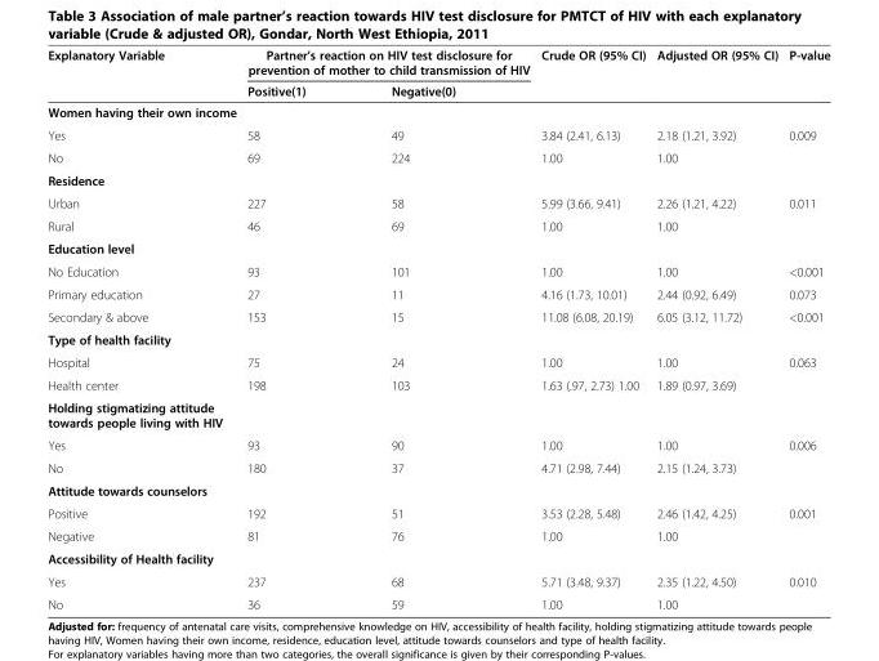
<table><thead><tr><td rowspan="2">Explanatory Variable</td><td colspan="2">Partner’s reaction on HIV test disclosure for prevention of mother to child transmission of HIV</td><td rowspan="2">Crude OR (95% CI)</td><td rowspan="2">Adjusted OR (95% CI)</td><td rowspan="2">P-value</td></tr><tr><td>Positive(1)</td><td>Negative(0)</td></tr></thead><tbody><tr><td colspan="6">Women having their own income</td></tr><tr><td>Yes</td><td>58</td><td>49</td><td>3.84 (2.41, 6.13)</td><td>2.18 (1.21, 3.92)</td><td>0.009</td></tr><tr><td>No</td><td>69</td><td>224</td><td>1.00</td><td>1.00</td><td></td></tr><tr><td colspan="6">Residence</td></tr><tr><td>Urban</td><td>227</td><td>58</td><td>5.99 (3.66, 9.41)</td><td>2.26 (1.21, 4.22)</td><td>0.011</td></tr><tr><td>Rural</td><td>46</td><td>69</td><td>1.00</td><td>1.00</td><td></td></tr><tr><td colspan="6">Education level</td></tr><tr><td>No Education</td><td>93</td><td>101</td><td>1.00</td><td>1.00</td><td>&lt;0.001</td></tr><tr><td>Primary education</td><td>27</td><td>11</td><td>4.16 (1.73, 10.01)</td><td>2.44 (0.92, 6.49)</td><td>0.073</td></tr><tr><td>Secondary &amp; above</td><td>153</td><td>15</td><td>11.08 (6.08, 20.19)</td><td>6.05 (3.12, 11.72)</td><td>&lt;0.001</td></tr><tr><td colspan="6">Type of health facility</td></tr><tr><td>Hospital</td><td>75</td><td>24</td><td>1.00</td><td>1.00</td><td>0.063</td></tr><tr><td>Health center</td><td>198</td><td>103</td><td>1.63 (.97, 2.73) 1.00</td><td>1.89 (0.97, 3.69)</td><td></td></tr><tr><td colspan="6">Holding stigmatizing attitude towards people living with HIV</td></tr><tr><td>Yes</td><td>93</td><td>90</td><td>1.00</td><td>1.00</td><td>0.006</td></tr><tr><td>No</td><td>180</td><td>37</td><td>4.71 (2.98, 7.44)</td><td>2.15 (1.24, 3.73)</td><td></td></tr><tr><td colspan="6">Attitude towards counselors</td></tr><tr><td>Positive</td><td>192</td><td>51</td><td>3.53 (2.28, 5.48)</td><td>2.46 (1.42, 4.25)</td><td>0.001</td></tr><tr><td>Negative</td><td>81</td><td>76</td><td>1.00</td><td>1.00</td><td></td></tr><tr><td colspan="6">Accessibility of Health facility</td></tr><tr><td>Yes</td><td>237</td><td>68</td><td>5.71 (3.48, 9.37)</td><td>2.35 (1.22, 4.50)</td><td>0.010</td></tr><tr><td>No</td><td>36</td><td>59</td><td>1.00</td><td>1.00</td><td></td></tr></tbody></table>